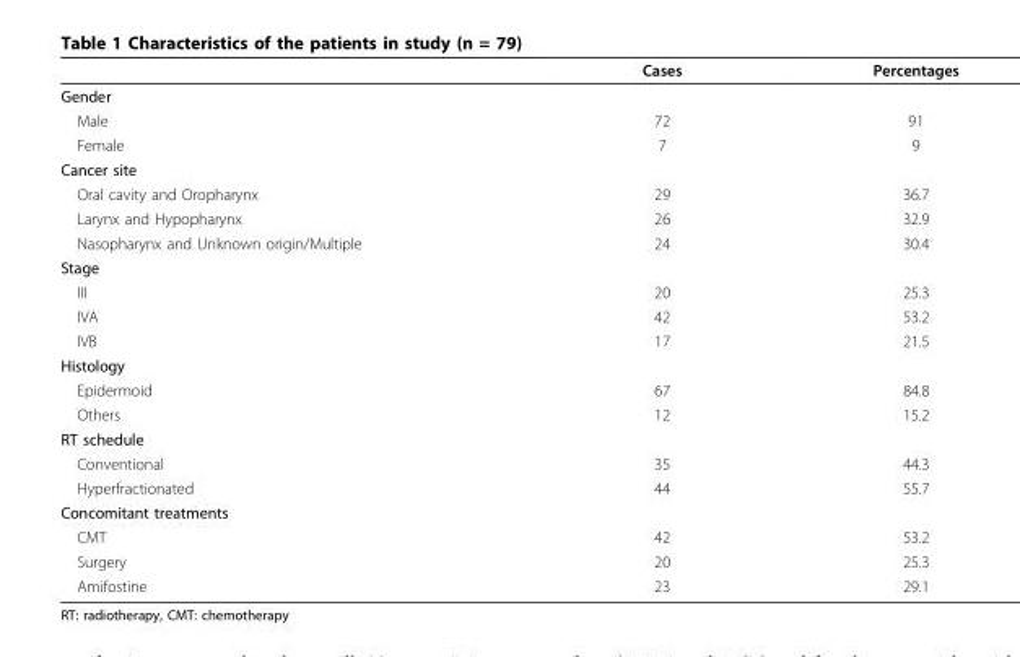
<table><thead><tr><td></td><td>Cases</td><td>Percentages</td></tr></thead><tbody><tr><td colspan="3">Gender</td></tr><tr><td>Male</td><td>72</td><td>91</td></tr><tr><td>Female</td><td>7</td><td>9</td></tr><tr><td colspan="3">Cancer site</td></tr><tr><td>Oral cavity and Oropharynx</td><td>29</td><td>36.7</td></tr><tr><td>Larynx and Hypopharynx</td><td>26</td><td>32.9</td></tr><tr><td>Nasopharynx and Unknown origin/Multiple</td><td>24</td><td>30.4</td></tr><tr><td colspan="3">Stage</td></tr><tr><td>III</td><td>20</td><td>25.3</td></tr><tr><td>IVA</td><td>42</td><td>53.2</td></tr><tr><td>IVB</td><td>17</td><td>21.5</td></tr><tr><td colspan="3">Histology</td></tr><tr><td>Epidermoid</td><td>67</td><td>84.8</td></tr><tr><td>Others</td><td>12</td><td>15.2</td></tr><tr><td colspan="3">RT schedule</td></tr><tr><td>Conventional</td><td>35</td><td>44.3</td></tr><tr><td>Hyperfractionated</td><td>44</td><td>55.7</td></tr><tr><td colspan="3">Concomitant treatments</td></tr><tr><td>CMT</td><td>42</td><td>53.2</td></tr><tr><td>Surgery</td><td>20</td><td>25.3</td></tr><tr><td>Amifostine</td><td>23</td><td>29.1</td></tr></tbody></table>